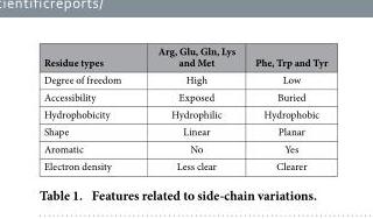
<table><thead><tr><td>Residue types</td><td>Arg, Glu, Gln, Lys and Met</td><td>Phe, Trp and Tyr</td></tr></thead><tbody><tr><td>Degree of freedom</td><td>High</td><td>Low</td></tr><tr><td>Accessibility</td><td>Exposed</td><td>Buried</td></tr><tr><td>Hydrophobicity</td><td>Hydrophilic</td><td>Hydrophobic</td></tr><tr><td>Shape</td><td>Linear</td><td>Planar</td></tr><tr><td>Aromatic</td><td>No</td><td>Yes</td></tr><tr><td>Electron density</td><td>Less clear</td><td>Clearer</td></tr></tbody></table>